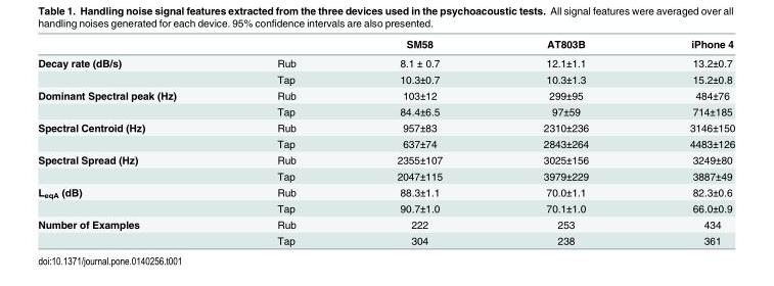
<table><thead><tr><td></td><td></td><td>SM58</td><td>AT803B</td><td>iPhone 4</td></tr></thead><tbody><tr><td rowspan="2">Decay rate (dB/s)</td><td>Rub</td><td>8.1 ± 0.7</td><td>12.1±1.1</td><td>13.2±0.7</td></tr><tr><td>Tap</td><td>10.3±0.7</td><td>10.3±1.3</td><td>15.2±0.8</td></tr><tr><td rowspan="2">Dominant Spectral peak (Hz)</td><td>Rub</td><td>103±12</td><td>299±95</td><td>484±76</td></tr><tr><td>Tap</td><td>84.4±6.5</td><td>97±59</td><td>714±185</td></tr><tr><td rowspan="2">Spectral Centroid (Hz)</td><td>Rub</td><td>957±83</td><td>2310±236</td><td>3146±150</td></tr><tr><td>Tap</td><td>637±74</td><td>2843±264</td><td>4483±126</td></tr><tr><td rowspan="2">Spectral Spread (Hz)</td><td>Rub</td><td>2355±107</td><td>3025±156</td><td>3249±80</td></tr><tr><td>Tap</td><td>2047±115</td><td>3979±229</td><td>3887±49</td></tr><tr><td rowspan="2">L<sub>eqA</sub> (dB)</td><td>Rub</td><td>88.3±1.1</td><td>70.0±1.1</td><td>82.3±0.6</td></tr><tr><td>Tap</td><td>90.7±1.0</td><td>70.1±1.0</td><td>66.0±0.9</td></tr><tr><td rowspan="2">Number of Examples</td><td>Rub</td><td>222</td><td>253</td><td>434</td></tr><tr><td>Tap</td><td>304</td><td>238</td><td>361</td></tr></tbody></table>